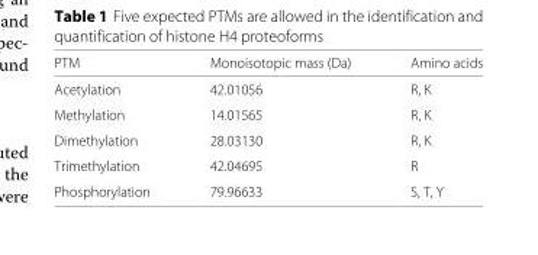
<table><thead><tr><td>PTM</td><td>Monoisotopic mass (Da)</td><td>Amino acids</td></tr></thead><tbody><tr><td>Acetylation</td><td>42.01056</td><td>R, K</td></tr><tr><td>Methylation</td><td>14.01565</td><td>R, K</td></tr><tr><td>Dimethylation</td><td>28.03130</td><td>R, K</td></tr><tr><td>Trimethylation</td><td>42.04695</td><td>R</td></tr><tr><td>Phosphorylation</td><td>79.96633</td><td>S, T, Y</td></tr></tbody></table>